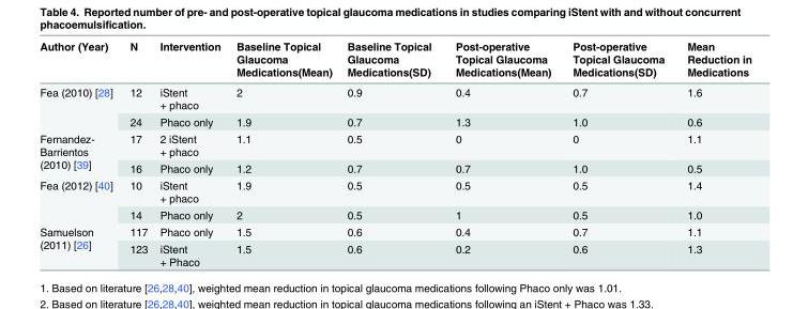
<table><thead><tr><td>Author (Year)</td><td>N</td><td>Intervention</td><td>Baseline Topical Glaucoma Medications(Mean)</td><td>Baseline Topical Glaucoma Medications(SD)</td><td>Post-operative Topical Glaucoma Medications(Mean)</td><td>Post-operative Topical Glaucoma Medications(SD)</td><td>Mean Reduction in Medications</td></tr></thead><tbody><tr><td rowspan="2">Fea (2010) [28]</td><td>12</td><td>iStent + phaco</td><td>2</td><td>0.9</td><td>0.4</td><td>0.7</td><td>1.6</td></tr><tr><td>24</td><td>Phaco only</td><td>1.9</td><td>0.7</td><td>1.3</td><td>1.0</td><td>0.6</td></tr><tr><td rowspan="2">Fernandez- Barrientos (2010) [39]</td><td>17</td><td>2 iStent + phaco</td><td>1.1</td><td>0.5</td><td>0</td><td>0</td><td>1.1</td></tr><tr><td>16</td><td>Phaco only</td><td>1.2</td><td>0.7</td><td>0.7</td><td>1.0</td><td>0.5</td></tr><tr><td rowspan="2">Fea (2012) [40]</td><td>10</td><td>iStent + phaco</td><td>1.9</td><td>0.5</td><td>0.5</td><td>0.5</td><td>1.4</td></tr><tr><td>14</td><td>Phaco only</td><td>2</td><td>0.5</td><td>1</td><td>0.5</td><td>1.0</td></tr><tr><td rowspan="2">Samuelson (2011) [26]</td><td>117</td><td>Phaco only</td><td>1.5</td><td>0.6</td><td>0.4</td><td>0.7</td><td>1.1</td></tr><tr><td>123</td><td>iStent + Phaco</td><td>1.5</td><td>0.6</td><td>0.2</td><td>0.6</td><td>1.3</td></tr></tbody></table>